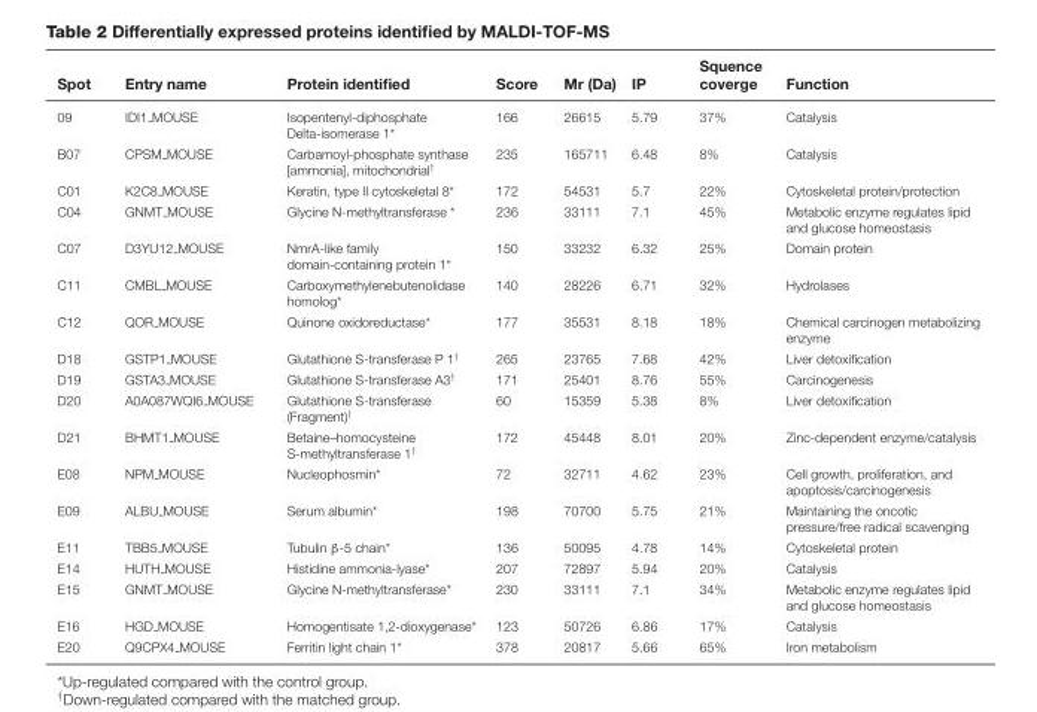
<table><thead><tr><td>Spot</td><td>Entry name</td><td>Protein identified</td><td>Score</td><td>Mr (Da)</td><td>IP</td><td>Squence coverge</td><td>Function</td></tr></thead><tbody><tr><td>09</td><td>IDI1 MOUSE</td><td>Isopentenyl-diphosphate Delta-isomerase 1*</td><td>166</td><td>26615</td><td>5.79</td><td>37%</td><td>Catalysis</td></tr><tr><td>B07</td><td>CPSM MOUSE</td><td>Carbamoyl-phosphate synthase [ammonia], mitochondrial<sup>†</sup></td><td>235</td><td>165711</td><td>6.48</td><td>8%</td><td>Catalysis</td></tr><tr><td>C01</td><td>K2C8 MOUSE</td><td>Keratin, type II cytoskeletal 8*</td><td>172</td><td>54531</td><td>5.7</td><td>22%</td><td>Cytoskeletal protein/protection</td></tr><tr><td>C04</td><td>GNMT MOUSE</td><td>Glycine N-methyltransferase *</td><td>236</td><td>33111</td><td>7.1</td><td>45%</td><td>Metabolic enzyme regulates lipid and glucose homeostasis</td></tr><tr><td>C07</td><td>D3YU12 MOUSE</td><td>NmrA-like family domain-containing protein 1*</td><td>150</td><td>33232</td><td>6.32</td><td>25%</td><td>Domain protein</td></tr><tr><td>C11</td><td>CMBL MOUSE</td><td>Carboxymethylenebutenolidase homolog*</td><td>140</td><td>28226</td><td>6.71</td><td>32%</td><td>Hydrolases</td></tr><tr><td>C12</td><td>QOR MOUSE</td><td>Quinone oxidoreductase*</td><td>177</td><td>35531</td><td>8.18</td><td>18%</td><td>Chemical carcinogen metabolizing enzyme</td></tr><tr><td>D18</td><td>GSTP1 MOUSE</td><td>Glutathione S-transferase P 1<sup>†</sup></td><td>265</td><td>23765</td><td>7.68</td><td>42%</td><td>Liver detoxification</td></tr><tr><td>D19</td><td>GSTA3 MOUSE</td><td>Glutathione S-transferase A3<sup>†</sup></td><td>171</td><td>25401</td><td>8.76</td><td>55%</td><td>Carcinogenesis</td></tr><tr><td>D20</td><td>A0A087WQI6 MOUSE</td><td>Glutathione S-transferase (Fragment)<sup>†</sup></td><td>60</td><td>15359</td><td>5.38</td><td>8%</td><td>Liver detoxification</td></tr><tr><td>D21</td><td>BHMT1 MOUSE</td><td>Betaine–homocysteine S-methyltransferase 1<sup>†</sup></td><td>172</td><td>45448</td><td>8.01</td><td>20%</td><td>Zinc-dependent enzyme/catalysis</td></tr><tr><td>E08</td><td>NPM MOUSE</td><td>Nucleophosmin*</td><td>72</td><td>32711</td><td>4.62</td><td>23%</td><td>Cell growth, proliferation, and apoptosis/carcinogenesis</td></tr><tr><td>E09</td><td>ALBU MOUSE</td><td>Serum albumin*</td><td>198</td><td>70700</td><td>5.75</td><td>21%</td><td>Maintaining the oncotic pressure/free radical scavenging</td></tr><tr><td>E11</td><td>TBB5 MOUSE</td><td>Tubulin β-5 chain*</td><td>136</td><td>50095</td><td>4.78</td><td>14%</td><td>Cytoskeletal protein</td></tr><tr><td>E14</td><td>HUTH MOUSE</td><td>Histidine ammonia-lyase*</td><td>207</td><td>72897</td><td>5.94</td><td>20%</td><td>Catalysis</td></tr><tr><td>E15</td><td>GNMT MOUSE</td><td>Glycine N-methyltransferase*</td><td>230</td><td>33111</td><td>7.1</td><td>34%</td><td>Metabolic enzyme regulates lipid and glucose homeostasis</td></tr><tr><td>E16</td><td>HGD MOUSE</td><td>Homogentisate 1,2-dioxygenase*</td><td>123</td><td>50726</td><td>6.86</td><td>17%</td><td>Catalysis</td></tr><tr><td>E20</td><td>Q9CPX4 MOUSE</td><td>Ferritin light chain 1*</td><td>378</td><td>20817</td><td>5.66</td><td>65%</td><td>Iron metabolism</td></tr></tbody></table>